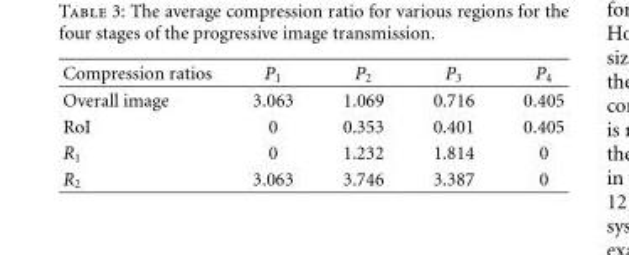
<table><thead><tr><td>Compression ratios</td><td>P<sub>1</sub></td><td>P<sub>2</sub></td><td>P<sub>3</sub></td><td>P<sub>4</sub></td></tr></thead><tbody><tr><td>Overall image</td><td>3.063</td><td>1.069</td><td>0.716</td><td>0.405</td></tr><tr><td>RoI</td><td>0</td><td>0.353</td><td>0.401</td><td>0.405</td></tr><tr><td>R<sub>1</sub></td><td>0</td><td>1.232</td><td>1.814</td><td>0</td></tr><tr><td>R<sub>2</sub></td><td>3.063</td><td>3.746</td><td>3.387</td><td>0</td></tr></tbody></table>